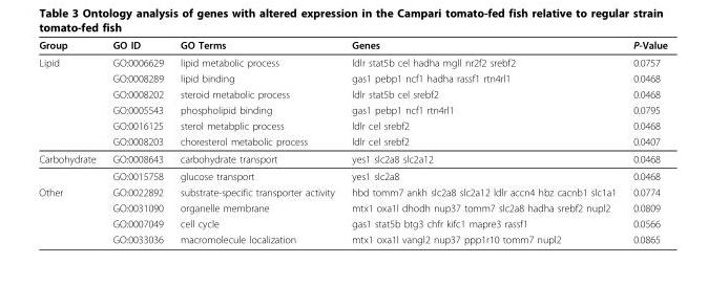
<table><thead><tr><td>Group</td><td>GO ID</td><td>GO Terms</td><td>Genes</td><td>P-Value</td></tr></thead><tbody><tr><td rowspan="6">Lipid</td><td>GO:0006629</td><td>lipid metabolic process</td><td>ldlr stat5b cel hadha mgll nr2f2 srebf2</td><td>0.0757</td></tr><tr><td>GO:0008289</td><td>lipid binding</td><td>gas1 pebp1 ncf1 hadha rassf1 rtn4rl1</td><td>0.0468</td></tr><tr><td>GO:0008202</td><td>steroid metabolic process</td><td>ldlr stat5b cel srebf2</td><td>0.0468</td></tr><tr><td>GO:0005543</td><td>phospholipid binding</td><td>gas1 pebp1 ncf1 rtn4rl1</td><td>0.0795</td></tr><tr><td>GO:0016125</td><td>sterol metabplic process</td><td>ldlr cel srebf2</td><td>0.0468</td></tr><tr><td>GO:0008203</td><td>choresterol metabolic process</td><td>ldlr cel srebf2</td><td>0.0407</td></tr><tr><td rowspan="2">Carbohydrate</td><td>GO:0008643</td><td>carbohydrate transport</td><td>yes1 slc2a8 slc2a12</td><td>0.0468</td></tr><tr><td>GO:0015758</td><td>glucose transport</td><td>yes1 slc2a8</td><td>0.0468</td></tr><tr><td rowspan="4">Other</td><td>GO:0022892</td><td>substrate-specific transporter activity</td><td>hbd tomm7 ankh slc2a8 slc2a12 ldlr accn4 hbz cacnb1 slc1a1</td><td>0.0774</td></tr><tr><td>GO:0031090</td><td>organelle membrane</td><td>mtx1 oxa1l dhodh nup37 tomm7 slc2a8 hadha srebf2 nupl2</td><td>0.0809</td></tr><tr><td>GO:0007049</td><td>cell cycle</td><td>gas1 stat5b btg3 chfr kifc1 mapre3 rassf1</td><td>0.0566</td></tr><tr><td>GO:0033036</td><td>macromolecule localization</td><td>mtx1 oxa1l vangl2 nup37 ppp1r10 tomm7 nupl2</td><td>0.0865</td></tr></tbody></table>